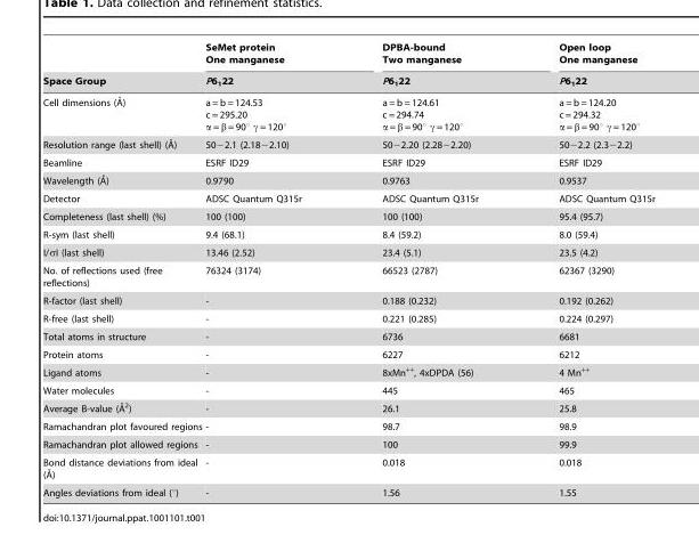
<table><thead><tr><td rowspan="2">Space Group</td><td rowspan="2">SeMet protein One manganese P6<sub>1</sub>22</td><td rowspan="2">DPBA-bound Two manganese P6<sub>1</sub>22</td><td rowspan="2">Open loop One manganese P6<sub>1</sub>22</td></tr><tr></tr></thead><tbody><tr><td>Cell dimensions (A˚)</td><td>a = b = 124.53 c = 295.20 α = β = 90° γ = 120°</td><td>a = b = 124.61 c = 294.74 α = β = 90° γ = 120°</td><td>a = b = 124.20 c = 294.32 α = β = 90° γ = 120°</td></tr><tr><td>Resolution range (last shell) (A˚)</td><td>50−2.1 (2.18−2.10)</td><td>50−2.20 (2.28−2.20)</td><td>50−2.2 (2.3−2.2)</td></tr><tr><td>Beamline</td><td>ESRF ID29</td><td>ESRF ID29</td><td>ESRF ID29</td></tr><tr><td>Wavelength (A˚)</td><td>0.9790</td><td>0.9763</td><td>0.9537</td></tr><tr><td>Detector</td><td>ADSC Quantum Q315r</td><td>ADSC Quantum Q315r</td><td>ADSC Quantum Q315r</td></tr><tr><td>Completeness (last shell) (%)</td><td>100 (100)</td><td>100 (100)</td><td>95.4 (95.7)</td></tr><tr><td>R-sym (last shell)</td><td>9.4 (68.1)</td><td>8.4 (59.2)</td><td>8.0 (59.4)</td></tr><tr><td>I/σI (last shell)</td><td>13.46 (2.52)</td><td>23.4 (5.1)</td><td>23.5 (4.2)</td></tr><tr><td>No. of reflections used (free reflections)</td><td>76324 (3174)</td><td>66523 (2787)</td><td>62367 (3290)</td></tr><tr><td>R-factor (last shell)</td><td>-</td><td>0.188 (0.232)</td><td>0.192 (0.262)</td></tr><tr><td>R-free (last shell)</td><td>-</td><td>0.221 (0.285)</td><td>0.224 (0.297)</td></tr><tr><td>Total atoms in structure</td><td>-</td><td>6736</td><td>6681</td></tr><tr><td>Protein atoms</td><td>-</td><td>6227</td><td>6212</td></tr><tr><td>Ligand atoms</td><td>-</td><td>8xMn<sup>++</sup>, 4xDPDA (56)</td><td>4 Mn<sup>++</sup></td></tr><tr><td>Water molecules</td><td>-</td><td>445</td><td>465</td></tr><tr><td>Average B-value (A˚2)</td><td>-</td><td>26.1</td><td>25.8</td></tr><tr><td>Ramachandran plot favoured regions</td><td>-</td><td>98.7</td><td>98.9</td></tr><tr><td>Ramachandran plot allowed regions</td><td>-</td><td>100</td><td>99.9</td></tr><tr><td>Bond distance deviations from ideal (A˚)</td><td>-</td><td>0.018</td><td>0.018</td></tr><tr><td>Angles deviations from ideal (°)</td><td>-</td><td>1.56</td><td>1.55</td></tr></tbody></table>